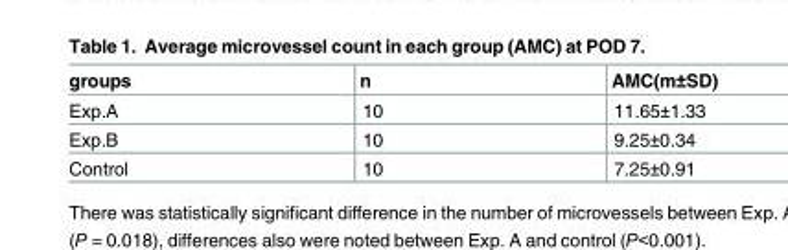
<table><thead><tr><td>groups</td><td>n</td><td>AMC(m±SD)</td></tr></thead><tbody><tr><td>Exp.A</td><td>10</td><td>11.65±1.33</td></tr><tr><td>Exp.B</td><td>10</td><td>9.25±0.34</td></tr><tr><td>Control</td><td>10</td><td>7.25±0.91</td></tr></tbody></table>